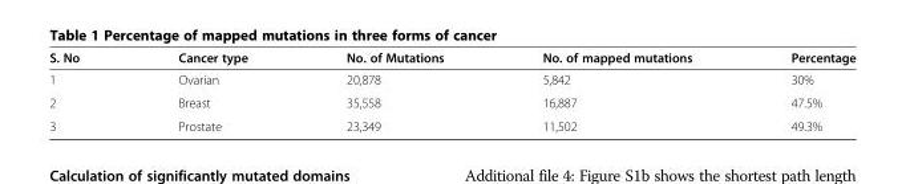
<table><thead><tr><td>S. No</td><td>Cancer type</td><td>No. of Mutations</td><td>No. of mapped mutations</td><td>Percentage</td></tr></thead><tbody><tr><td>1</td><td>Ovarian</td><td>20,878</td><td>5,842</td><td>30%</td></tr><tr><td>2</td><td>Breast</td><td>35,558</td><td>16,887</td><td>47.5%</td></tr><tr><td>3</td><td>Prostate</td><td>23,349</td><td>11,502</td><td>49.3%</td></tr></tbody></table>